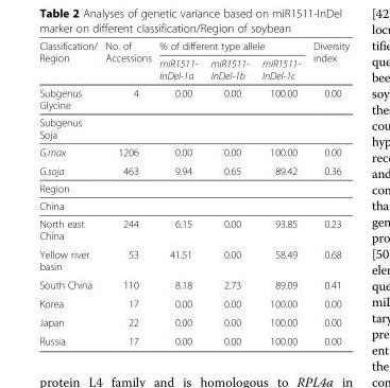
<table><thead><tr><td rowspan="2">Classification/ Region</td><td rowspan="2">No. of Accessions</td><td colspan="3">% of different type allele</td><td rowspan="2">Diversity index</td></tr><tr><td>miR1511- InDel-1a</td><td>miR1511- InDel-1b</td><td>miR1511- InDel-1c</td></tr></thead><tbody><tr><td>Subgenus Glycine</td><td>4</td><td>0.00</td><td>0.00</td><td>100.00</td><td>0.00</td></tr><tr><td colspan="6">Subgenus Soja</td></tr><tr><td>G.max</td><td>1206</td><td>0.00</td><td>0.00</td><td>100.00</td><td>0.00</td></tr><tr><td>G.soja</td><td>463</td><td>9.94</td><td>0.65</td><td>89.42</td><td>0.36</td></tr><tr><td colspan="6">Region</td></tr><tr><td colspan="6">China</td></tr><tr><td>North east China</td><td>244</td><td>6.15</td><td>0.00</td><td>93.85</td><td>0.23</td></tr><tr><td>Yellow river basin</td><td>53</td><td>41.51</td><td>0.00</td><td>58.49</td><td>0.68</td></tr><tr><td>South China</td><td>110</td><td>8.18</td><td>2.73</td><td>89.09</td><td>0.41</td></tr><tr><td>Korea</td><td>17</td><td>0.00</td><td>0.00</td><td>100.00</td><td>0.00</td></tr><tr><td>Japan</td><td>22</td><td>0.00</td><td>0.00</td><td>100.00</td><td>0.00</td></tr><tr><td>Russia</td><td>17</td><td>0.00</td><td>0.00</td><td>100.00</td><td>0.00</td></tr></tbody></table>